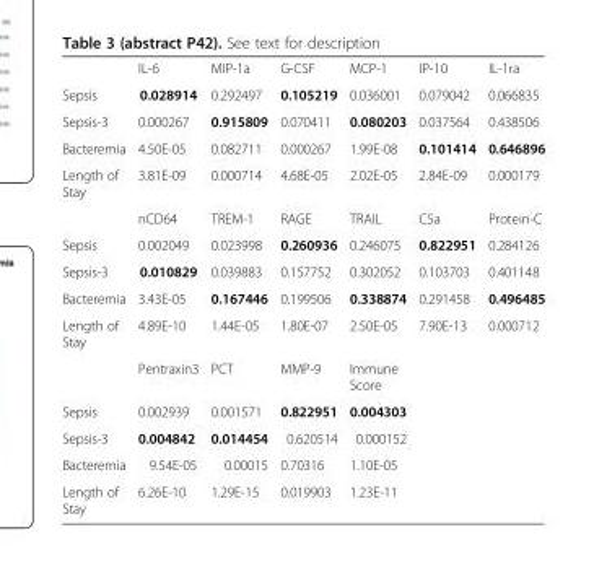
<table><thead><tr><td></td><td>IL-6</td><td>MIP-1a</td><td>G-CSF</td><td>MCP-1</td><td>IP-10</td><td>IL-1ra</td></tr></thead><tbody><tr><td>Sepsis</td><td>0.028914</td><td>0.292497</td><td>0.105219</td><td>0.036001</td><td>0.079042</td><td>0.066835</td></tr><tr><td>Sepsis-3</td><td>0.000267</td><td>0.915809</td><td>0.070411</td><td>0.080203</td><td>0.037564</td><td>0.438506</td></tr><tr><td>Bacteremia</td><td>4.50E-05</td><td>0.082711</td><td>0.000267</td><td>1.99E-08</td><td>0.101414</td><td>0.646896</td></tr><tr><td rowspan="2">Length of Stay</td><td>3.81E-09</td><td>0.000714</td><td>4.68E-05</td><td>2.02E-05</td><td>2.84E-09</td><td>0.000179</td></tr><tr><td>nCD64</td><td>TREM-1</td><td>RAGE</td><td>TRAIL</td><td>C5a</td><td>Protein-C</td></tr><tr><td>Sepsis</td><td>0.002049</td><td>0.023998</td><td>0.260936</td><td>0.246075</td><td>0.822951</td><td>0.284126</td></tr><tr><td>Sepsis-3</td><td>0.010829</td><td>0.039883</td><td>0.157752</td><td>0.302052</td><td>0.103703</td><td>0.401148</td></tr><tr><td>Bacteremia</td><td>3.43E-05</td><td>0.167446</td><td>0.199506</td><td>0.338874</td><td>0.291458</td><td>0.496485</td></tr><tr><td rowspan="2">Length of Stay</td><td>4.89E-10</td><td>1.44E-05</td><td>1.80E-07</td><td>2.50E-05</td><td>7.90E-13</td><td>0.000712</td></tr><tr><td>Pentraxin3</td><td>PCT</td><td>MMP-9</td><td>Immune Score</td><td></td><td></td></tr><tr><td>Sepsis</td><td>0.002939</td><td>0.001571</td><td>0.822951</td><td>0.004303</td><td></td><td></td></tr><tr><td>Sepsis-3</td><td>0.004842</td><td>0.014454</td><td>0.620514</td><td>0.000152</td><td></td><td></td></tr><tr><td>Bacteremia</td><td>9.54E-05</td><td>0.00015</td><td>0.70316</td><td>1.10E-05</td><td></td><td></td></tr><tr><td>Length of Stay</td><td>6.26E-10</td><td>1.29E-15</td><td>0.019903</td><td>1.23E-11</td><td></td><td></td></tr></tbody></table>